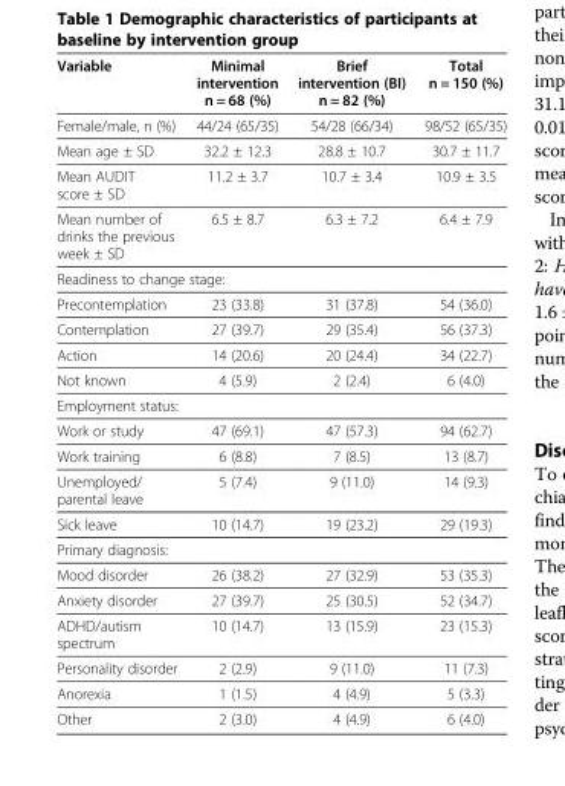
<table><thead><tr><td>Variable</td><td>Minimal intervention n = 68 (%)</td><td>Brief intervention (BI) n = 82 (%)</td><td>Total n = 150 (%)</td></tr></thead><tbody><tr><td>Female/male, n (%)</td><td>44/24 (65/35)</td><td>54/28 (66/34)</td><td>98/52 (65/35)</td></tr><tr><td>Mean age ± SD</td><td>32.2 ± 12.3</td><td>28.8 ± 10.7</td><td>30.7 ± 11.7</td></tr><tr><td>Mean AUDIT score ± SD</td><td>11.2 ± 3.7</td><td>10.7 ± 3.4</td><td>10.9 ± 3.5</td></tr><tr><td>Mean number of drinks the previous week ± SD</td><td>6.5 ± 8.7</td><td>6.3 ± 7.2</td><td>6.4 ± 7.9</td></tr><tr><td colspan="4">Readiness to change stage:</td></tr><tr><td>Precontemplation</td><td>23 (33.8)</td><td>31 (37.8)</td><td>54 (36.0)</td></tr><tr><td>Contemplation</td><td>27 (39.7)</td><td>29 (35.4)</td><td>56 (37.3)</td></tr><tr><td>Action</td><td>14 (20.6)</td><td>20 (24.4)</td><td>34 (22.7)</td></tr><tr><td>Not known</td><td>4 (5.9)</td><td>2 (2.4)</td><td>6 (4.0)</td></tr><tr><td colspan="4">Employment status:</td></tr><tr><td>Work or study</td><td>47 (69.1)</td><td>47 (57.3)</td><td>94 (62.7)</td></tr><tr><td>Work training</td><td>6 (8.8)</td><td>7 (8.5)</td><td>13 (8.7)</td></tr><tr><td>Unemployed/ parental leave</td><td>5 (7.4)</td><td>9 (11.0)</td><td>14 (9.3)</td></tr><tr><td>Sick leave</td><td>10 (14.7)</td><td>19 (23.2)</td><td>29 (19.3)</td></tr><tr><td colspan="4">Primary diagnosis:</td></tr><tr><td>Mood disorder</td><td>26 (38.2)</td><td>27 (32.9)</td><td>53 (35.3)</td></tr><tr><td>Anxiety disorder</td><td>27 (39.7)</td><td>25 (30.5)</td><td>52 (34.7)</td></tr><tr><td>ADHD/autism spectrum</td><td>10 (14.7)</td><td>13 (15.9)</td><td>23 (15.3)</td></tr><tr><td>Personality disorder</td><td>2 (2.9)</td><td>9 (11.0)</td><td>11 (7.3)</td></tr><tr><td>Anorexia</td><td>1 (1.5)</td><td>4 (4.9)</td><td>5 (3.3)</td></tr><tr><td>Other</td><td>2 (3.0)</td><td>4 (4.9)</td><td>6 (4.0)</td></tr></tbody></table>